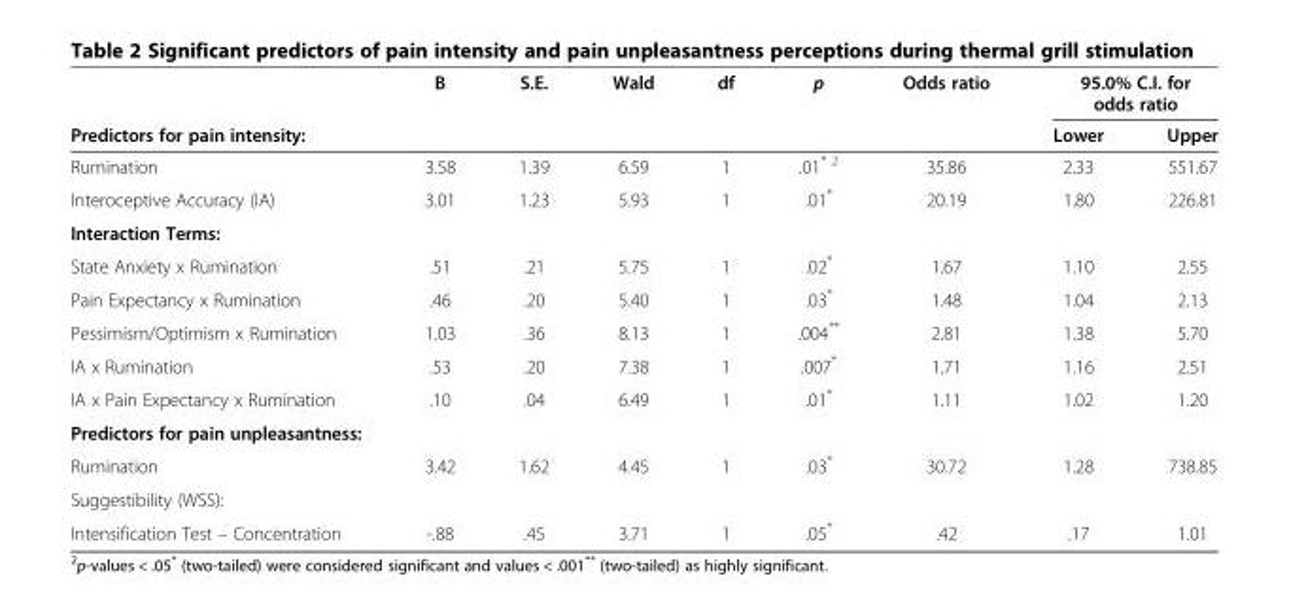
<table><thead><tr><td rowspan="2">Predictors for pain intensity:</td><td rowspan="2">B</td><td rowspan="2">S.E.</td><td rowspan="2">Wald</td><td rowspan="2">df</td><td rowspan="2">p</td><td rowspan="2">Odds ratio</td><td colspan="2">95.0% C.I. for odds ratio</td></tr><tr><td>Lower</td><td>Upper</td></tr></thead><tbody><tr><td>Rumination</td><td>3.58</td><td>1.39</td><td>6.59</td><td>1</td><td>.01<sup>* 2</sup></td><td>35.86</td><td>2.33</td><td>551.67</td></tr><tr><td>Interoceptive Accuracy (IA)</td><td>3.01</td><td>1.23</td><td>5.93</td><td>1</td><td>.01*</td><td>20.19</td><td>1.80</td><td>226.81</td></tr><tr><td colspan="9">Interaction Terms:</td></tr><tr><td>State Anxiety x Rumination</td><td>.51</td><td>.21</td><td>5.75</td><td>1</td><td>.02*</td><td>1.67</td><td>1.10</td><td>2.55</td></tr><tr><td>Pain Expectancy x Rumination</td><td>.46</td><td>.20</td><td>5.40</td><td>1</td><td>.03*</td><td>1.48</td><td>1.04</td><td>2.13</td></tr><tr><td>Pessimism/Optimism x Rumination</td><td>1.03</td><td>.36</td><td>8.13</td><td>1</td><td>.004**</td><td>2.81</td><td>1.38</td><td>5.70</td></tr><tr><td>IA x Rumination</td><td>.53</td><td>.20</td><td>7.38</td><td>1</td><td>.007*</td><td>1.71</td><td>1.16</td><td>2.51</td></tr><tr><td>IA x Pain Expectancy x Rumination</td><td>.10</td><td>.04</td><td>6.49</td><td>1</td><td>.01*</td><td>1.11</td><td>1.02</td><td>1.20</td></tr><tr><td colspan="9">Predictors for pain unpleasantness:</td></tr><tr><td>Rumination</td><td>3.42</td><td>1.62</td><td>4.45</td><td>1</td><td>.03*</td><td>30.72</td><td>1.28</td><td>738.85</td></tr><tr><td colspan="9">Suggestibility (WSS):</td></tr><tr><td>Intensification Test – Concentration</td><td>-.88</td><td>.45</td><td>3.71</td><td>1</td><td>.05*</td><td>.42</td><td>.17</td><td>1.01</td></tr></tbody></table>